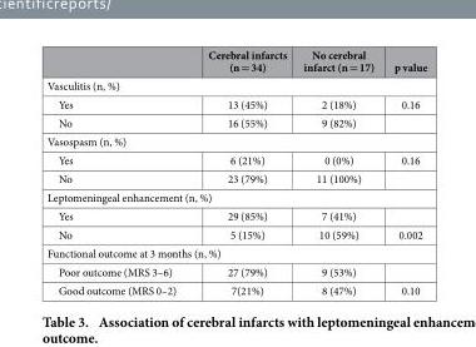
<table><thead><tr><td></td><td>Cerebral infarcts (n = 34)</td><td>No cerebral infarct (n = 17)</td><td>p value</td></tr></thead><tbody><tr><td colspan="4">Vasculitis (n, %)</td></tr><tr><td>Yes</td><td>13 (45%)</td><td>2 (18%)</td><td>0.16</td></tr><tr><td>No</td><td>16 (55%)</td><td>9 (82%)</td><td></td></tr><tr><td colspan="4">Vasospasm (n, %)</td></tr><tr><td>Yes</td><td>6 (21%)</td><td>0 (0%)</td><td>0.16</td></tr><tr><td>No</td><td>23 (79%)</td><td>11 (100%)</td><td></td></tr><tr><td colspan="4">Leptomeningeal enhancement (n, %)</td></tr><tr><td>Yes</td><td>29 (85%)</td><td>7 (41%)</td><td></td></tr><tr><td>No</td><td>5 (15%)</td><td>10 (59%)</td><td>0.002</td></tr><tr><td colspan="4">Functional outcome at 3 months (n, %)</td></tr><tr><td>Poor outcome (MRS 3–6)</td><td>27 (79%)</td><td>9 (53%)</td><td></td></tr><tr><td>Good outcome (MRS 0–2)</td><td>7(21%)</td><td>8 (47%)</td><td>0.10</td></tr></tbody></table>